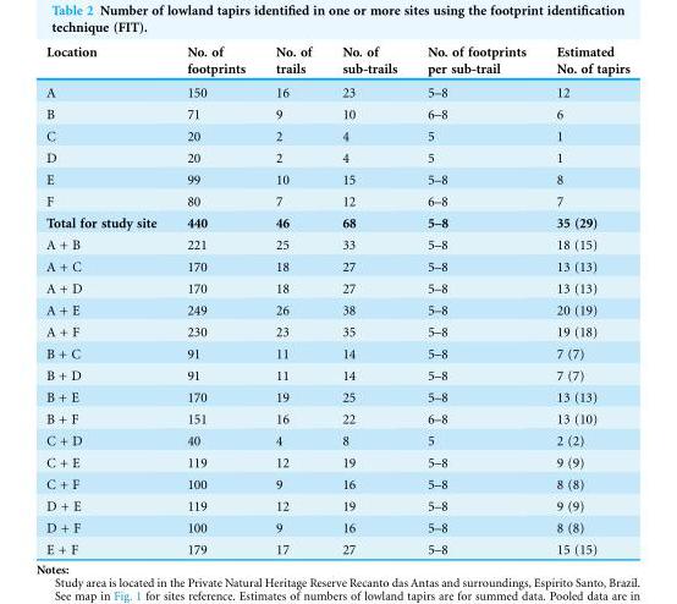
<table><thead><tr><td>Location</td><td>No. of footprints</td><td>No. of trails</td><td>No. of sub-trails</td><td>No. of footprints per sub-trail</td><td>Estimated No. of tapirs</td></tr></thead><tbody><tr><td>A</td><td>150</td><td>16</td><td>23</td><td>5–8</td><td>12</td></tr><tr><td>B</td><td>71</td><td>9</td><td>10</td><td>6–8</td><td>6</td></tr><tr><td>C</td><td>20</td><td>2</td><td>4</td><td>5</td><td>1</td></tr><tr><td>D</td><td>20</td><td>2</td><td>4</td><td>5</td><td>1</td></tr><tr><td>E</td><td>99</td><td>10</td><td>15</td><td>5–8</td><td>8</td></tr><tr><td>F</td><td>80</td><td>7</td><td>12</td><td>6–8</td><td>7</td></tr><tr><td>Total for study site</td><td>440</td><td>46</td><td>68</td><td>5–8</td><td>35 (29)</td></tr><tr><td>A + B</td><td>221</td><td>25</td><td>33</td><td>5–8</td><td>18 (15)</td></tr><tr><td>A + C</td><td>170</td><td>18</td><td>27</td><td>5–8</td><td>13 (13)</td></tr><tr><td>A + D</td><td>170</td><td>18</td><td>27</td><td>5–8</td><td>13 (13)</td></tr><tr><td>A + E</td><td>249</td><td>26</td><td>38</td><td>5–8</td><td>20 (19)</td></tr><tr><td>A + F</td><td>230</td><td>23</td><td>35</td><td>5–8</td><td>19 (18)</td></tr><tr><td>B + C</td><td>91</td><td>11</td><td>14</td><td>5–8</td><td>7 (7)</td></tr><tr><td>B + D</td><td>91</td><td>11</td><td>14</td><td>5–8</td><td>7 (7)</td></tr><tr><td>B + E</td><td>170</td><td>19</td><td>25</td><td>5–8</td><td>13 (13)</td></tr><tr><td>B + F</td><td>151</td><td>16</td><td>22</td><td>6–8</td><td>13 (10)</td></tr><tr><td>C + D</td><td>40</td><td>4</td><td>8</td><td>5</td><td>2 (2)</td></tr><tr><td>C + E</td><td>119</td><td>12</td><td>19</td><td>5–8</td><td>9 (9)</td></tr><tr><td>C + F</td><td>100</td><td>9</td><td>16</td><td>5–8</td><td>8 (8)</td></tr><tr><td>D + E</td><td>119</td><td>12</td><td>19</td><td>5–8</td><td>9 (9)</td></tr><tr><td>D + F</td><td>100</td><td>9</td><td>16</td><td>5–8</td><td>8 (8)</td></tr><tr><td>E + F</td><td>179</td><td>17</td><td>27</td><td>5–8</td><td>15 (15)</td></tr></tbody></table>